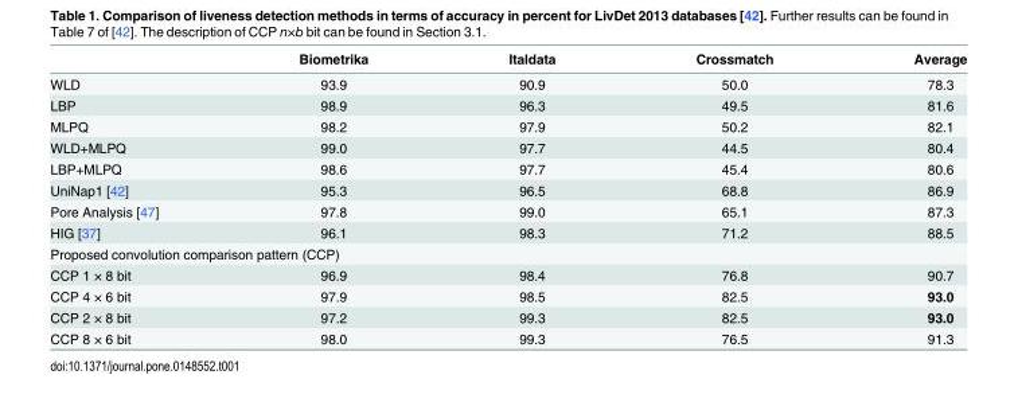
<table><thead><tr><td></td><td>Biometrika</td><td>Italdata</td><td>Crossmatch</td><td>Average</td></tr></thead><tbody><tr><td>WLD</td><td>93.9</td><td>90.9</td><td>50.0</td><td>78.3</td></tr><tr><td>LBP</td><td>98.9</td><td>96.3</td><td>49.5</td><td>81.6</td></tr><tr><td>MLPQ</td><td>98.2</td><td>97.9</td><td>50.2</td><td>82.1</td></tr><tr><td>WLD+MLPQ</td><td>99.0</td><td>97.7</td><td>44.5</td><td>80.4</td></tr><tr><td>LBP+MLPQ</td><td>98.6</td><td>97.7</td><td>45.4</td><td>80.6</td></tr><tr><td>UniNap1 [42]</td><td>95.3</td><td>96.5</td><td>68.8</td><td>86.9</td></tr><tr><td>Pore Analysis [47]</td><td>97.8</td><td>99.0</td><td>65.1</td><td>87.3</td></tr><tr><td>HIG [37]</td><td>96.1</td><td>98.3</td><td>71.2</td><td>88.5</td></tr><tr><td colspan="5">Proposed convolution comparison pattern (CCP)</td></tr><tr><td>CCP 1 × 8 bit</td><td>96.9</td><td>98.4</td><td>76.8</td><td>90.7</td></tr><tr><td>CCP 4 × 6 bit</td><td>97.9</td><td>98.5</td><td>82.5</td><td>93.0</td></tr><tr><td>CCP 2 × 8 bit</td><td>97.2</td><td>99.3</td><td>82.5</td><td>93.0</td></tr><tr><td>CCP 8 × 6 bit</td><td>98.0</td><td>99.3</td><td>76.5</td><td>91.3</td></tr></tbody></table>